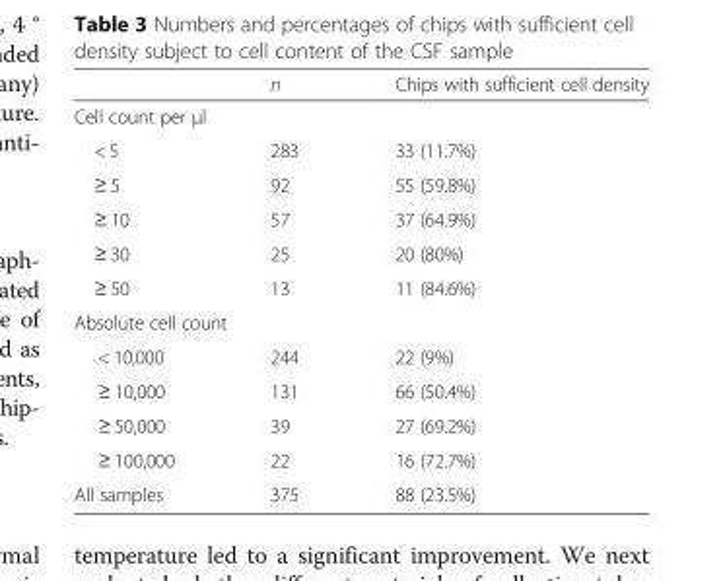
<table><thead><tr><td></td><td>n</td><td>Chips with sufficient cell density</td></tr></thead><tbody><tr><td colspan="3">Cell count per μl</td></tr><tr><td>&lt; 5</td><td>283</td><td>33 (11.7%)</td></tr><tr><td>≥ 5</td><td>92</td><td>55 (59.8%)</td></tr><tr><td>≥ 10</td><td>57</td><td>37 (64.9%)</td></tr><tr><td>≥ 30</td><td>25</td><td>20 (80%)</td></tr><tr><td>≥ 50</td><td>13</td><td>11 (84.6%)</td></tr><tr><td colspan="3">Absolute cell count</td></tr><tr><td>&lt; 10,000</td><td>244</td><td>22 (9%)</td></tr><tr><td>≥ 10,000</td><td>131</td><td>66 (50.4%)</td></tr><tr><td>≥ 50,000</td><td>39</td><td>27 (69.2%)</td></tr><tr><td>≥ 100,000</td><td>22</td><td>16 (72.7%)</td></tr><tr><td>All samples</td><td>375</td><td>88 (23.5%)</td></tr></tbody></table>